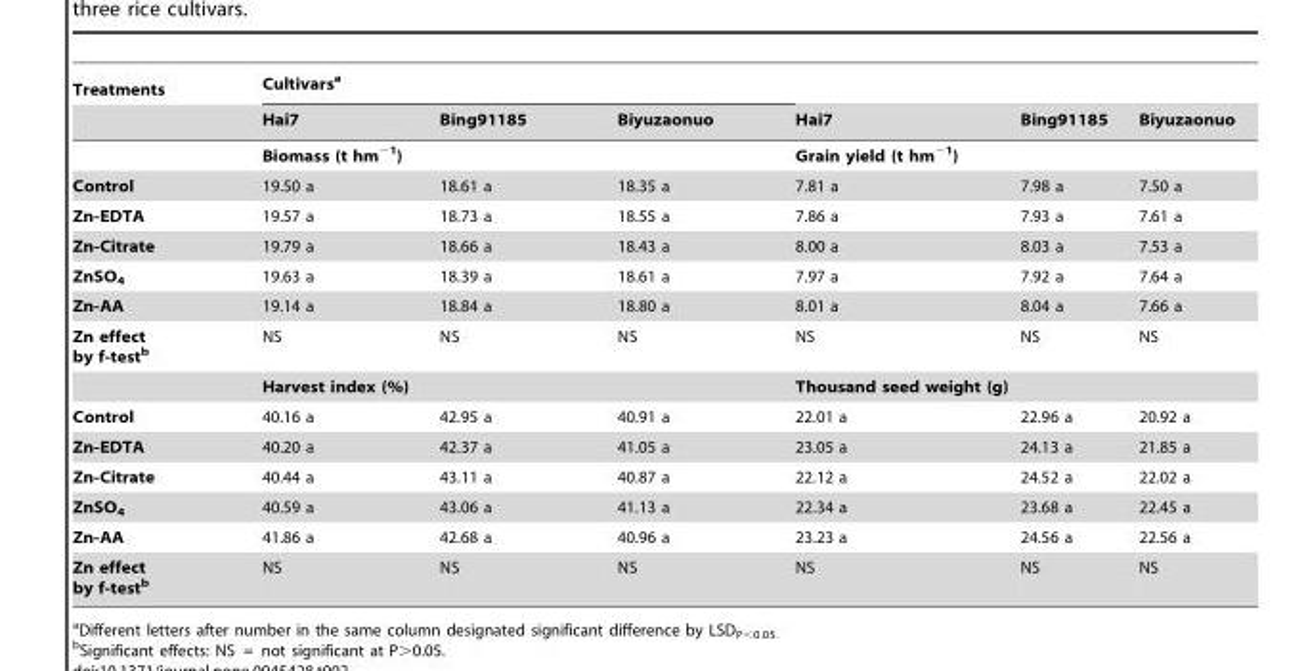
<table><thead><tr><td rowspan="2">Treatments</td><td colspan="6">Cultivars<sup>a</sup></td></tr><tr><td>Hai7</td><td>Bing91185</td><td>Biyuzaonuo</td><td>Hai7</td><td>Bing91185</td><td>Biyuzaonuo</td></tr></thead><tbody><tr><td></td><td colspan="3">Biomass (t hm<sup>−1</sup>)</td><td colspan="3">Grain yield (t hm<sup>−1</sup>)</td></tr><tr><td>Control</td><td>19.50 a</td><td>18.61 a</td><td>18.35 a</td><td>7.81 a</td><td>7.98 a</td><td>7.50 a</td></tr><tr><td>Zn-EDTA</td><td>19.57 a</td><td>18.73 a</td><td>18.55 a</td><td>7.86 a</td><td>7.93 a</td><td>7.61 a</td></tr><tr><td>Zn-Citrate</td><td>19.79 a</td><td>18.66 a</td><td>18.43 a</td><td>8.00 a</td><td>8.03 a</td><td>7.53 a</td></tr><tr><td>ZnSO<sub>4</sub></td><td>19.63 a</td><td>18.39 a</td><td>18.61 a</td><td>7.97 a</td><td>7.92 a</td><td>7.64 a</td></tr><tr><td>Zn-AA</td><td>19.14 a</td><td>18.84 a</td><td>18.80 a</td><td>8.01 a</td><td>8.04 a</td><td>7.66 a</td></tr><tr><td rowspan="2">Zn effect by f-testb</td><td>NS</td><td>NS</td><td>NS</td><td>NS</td><td>NS</td><td>NS</td></tr><tr><td colspan="3">Harvest index (%)</td><td colspan="3">Thousand seed weight (g)</td></tr><tr><td>Control</td><td>40.16 a</td><td>42.95 a</td><td>40.91 a</td><td>22.01 a</td><td>22.96 a</td><td>20.92 a</td></tr><tr><td>Zn-EDTA</td><td>40.20 a</td><td>42.37 a</td><td>41.05 a</td><td>23.05 a</td><td>24.13 a</td><td>21.85 a</td></tr><tr><td>Zn-Citrate</td><td>40.44 a</td><td>43.11 a</td><td>40.87 a</td><td>22.12 a</td><td>24.52 a</td><td>22.02 a</td></tr><tr><td>ZnSO<sub>4</sub></td><td>40.59 a</td><td>43.06 a</td><td>41.13 a</td><td>22.34 a</td><td>23.68 a</td><td>22.45 a</td></tr><tr><td>Zn-AA</td><td>41.86 a</td><td>42.68 a</td><td>40.96 a</td><td>23.23 a</td><td>24.56 a</td><td>22.56 a</td></tr><tr><td>Zn effect by f-testb</td><td>NS</td><td>NS</td><td>NS</td><td>NS</td><td>NS</td><td>NS</td></tr></tbody></table>